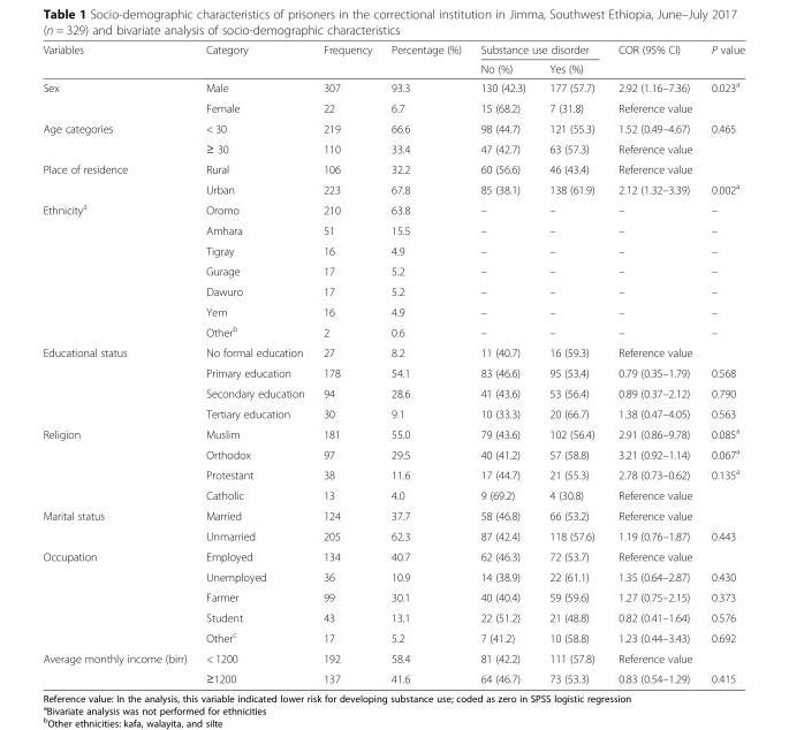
<table><thead><tr><td rowspan="2">Variables</td><td rowspan="2">Category</td><td rowspan="2">Frequency</td><td rowspan="2">Percentage (%)</td><td colspan="2">Substance use disorder</td><td rowspan="2">COR (95% CI)</td><td rowspan="2">P value</td></tr><tr><td>No (%)</td><td>Yes (%)</td></tr></thead><tbody><tr><td rowspan="2">Sex</td><td>Male</td><td>307</td><td>93.3</td><td>130 (42.3)</td><td>177 (57.7)</td><td>2.92 (1.16–7.36)</td><td>0.023<sup>a</sup></td></tr><tr><td>Female</td><td>22</td><td>6.7</td><td>15 (68.2)</td><td>7 (31.8)</td><td>Reference value</td><td></td></tr><tr><td rowspan="2">Age categories</td><td>&lt; 30</td><td>219</td><td>66.6</td><td>98 (44.7)</td><td>121 (55.3)</td><td>1.52 (0.49–4.67)</td><td>0.465</td></tr><tr><td>≥ 30</td><td>110</td><td>33.4</td><td>47 (42.7)</td><td>63 (57.3)</td><td>Reference value</td><td></td></tr><tr><td rowspan="2">Place of residence</td><td>Rural</td><td>106</td><td>32.2</td><td>60 (56.6)</td><td>46 (43.4)</td><td>Reference value</td><td></td></tr><tr><td>Urban</td><td>223</td><td>67.8</td><td>85 (38.1)</td><td>138 (61.9)</td><td>2.12 (1.32–3.39)</td><td>0.002<sup>a</sup></td></tr><tr><td rowspan="7">Ethnicity<sup>a</sup></td><td>Oromo</td><td>210</td><td>63.8</td><td>–</td><td>–</td><td>–</td><td>–</td></tr><tr><td>Amhara</td><td>51</td><td>15.5</td><td>–</td><td>–</td><td>–</td><td>–</td></tr><tr><td>Tigray</td><td>16</td><td>4.9</td><td>–</td><td>–</td><td>–</td><td>–</td></tr><tr><td>Gurage</td><td>17</td><td>5.2</td><td>–</td><td>–</td><td>–</td><td>–</td></tr><tr><td>Dawuro</td><td>17</td><td>5.2</td><td>–</td><td>–</td><td>–</td><td>–</td></tr><tr><td>Yem</td><td>16</td><td>4.9</td><td>–</td><td>–</td><td>–</td><td>–</td></tr><tr><td>Other<sup>b</sup></td><td>2</td><td>0.6</td><td>–</td><td>–</td><td>–</td><td>–</td></tr><tr><td rowspan="4">Educational status</td><td>No formal education</td><td>27</td><td>8.2</td><td>11 (40.7)</td><td>16 (59.3)</td><td>Reference value</td><td></td></tr><tr><td>Primary education</td><td>178</td><td>54.1</td><td>83 (46.6)</td><td>95 (53.4)</td><td>0.79 (0.35–1.79)</td><td>0.568</td></tr><tr><td>Secondary education</td><td>94</td><td>28.6</td><td>41 (43.6)</td><td>53 (56.4)</td><td>0.89 (0.37–2.12)</td><td>0.790</td></tr><tr><td>Tertiary education</td><td>30</td><td>9.1</td><td>10 (33.3)</td><td>20 (66.7)</td><td>1.38 (0.47–4.05)</td><td>0.563</td></tr><tr><td rowspan="4">Religion</td><td>Muslim</td><td>181</td><td>55.0</td><td>79 (43.6)</td><td>102 (56.4)</td><td>2.91 (0.86–9.78)</td><td>0.085<sup>a</sup></td></tr><tr><td>Orthodox</td><td>97</td><td>29.5</td><td>40 (41.2)</td><td>57 (58.8)</td><td>3.21 (0.92–1.14)</td><td>0.067<sup>a</sup></td></tr><tr><td>Protestant</td><td>38</td><td>11.6</td><td>17 (44.7)</td><td>21 (55.3)</td><td>2.78 (0.73–0.62)</td><td>0.135<sup>a</sup></td></tr><tr><td>Catholic</td><td>13</td><td>4.0</td><td>9 (69.2)</td><td>4 (30.8)</td><td>Reference value</td><td></td></tr><tr><td rowspan="2">Marital status</td><td>Married</td><td>124</td><td>37.7</td><td>58 (46.8)</td><td>66 (53.2)</td><td>Reference value</td><td></td></tr><tr><td>Unmarried</td><td>205</td><td>62.3</td><td>87 (42.4)</td><td>118 (57.6)</td><td>1.19 (0.76–1.87)</td><td>0.443</td></tr><tr><td rowspan="5">Occupation</td><td>Employed</td><td>134</td><td>40.7</td><td>62 (46.3)</td><td>72 (53.7)</td><td>Reference value</td><td></td></tr><tr><td>Unemployed</td><td>36</td><td>10.9</td><td>14 (38.9)</td><td>22 (61.1)</td><td>1.35 (0.64–2.87)</td><td>0.430</td></tr><tr><td>Farmer</td><td>99</td><td>30.1</td><td>40 (40.4)</td><td>59 (59.6)</td><td>1.27 (0.75–2.15)</td><td>0.373</td></tr><tr><td>Student</td><td>43</td><td>13.1</td><td>22 (51.2)</td><td>21 (48.8)</td><td>0.82 (0.41–1.64)</td><td>0.576</td></tr><tr><td>Other<sup>c</sup></td><td>17</td><td>5.2</td><td>7 (41.2)</td><td>10 (58.8)</td><td>1.23 (0.44–3.43)</td><td>0.692</td></tr><tr><td rowspan="2">Average monthly income (birr)</td><td>&lt; 1200</td><td>192</td><td>58.4</td><td>81 (42.2)</td><td>111 (57.8)</td><td>Reference value</td><td></td></tr><tr><td>≥1200</td><td>137</td><td>41.6</td><td>64 (46.7)</td><td>73 (53.3)</td><td>0.83 (0.54–1.29)</td><td>0.415</td></tr></tbody></table>